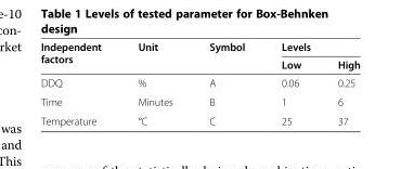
<table><thead><tr><td rowspan="2">Independent factors</td><td rowspan="2">Unit</td><td rowspan="2">Symbol</td><td colspan="2">Levels</td></tr><tr><td>Low</td><td>High</td></tr></thead><tbody><tr><td>DDQ</td><td>%</td><td>A</td><td>0.06</td><td>0.25</td></tr><tr><td>Time</td><td>Minutes</td><td>B</td><td>1</td><td>6</td></tr><tr><td>Temperature</td><td>°C</td><td>C</td><td>25</td><td>37</td></tr></tbody></table>